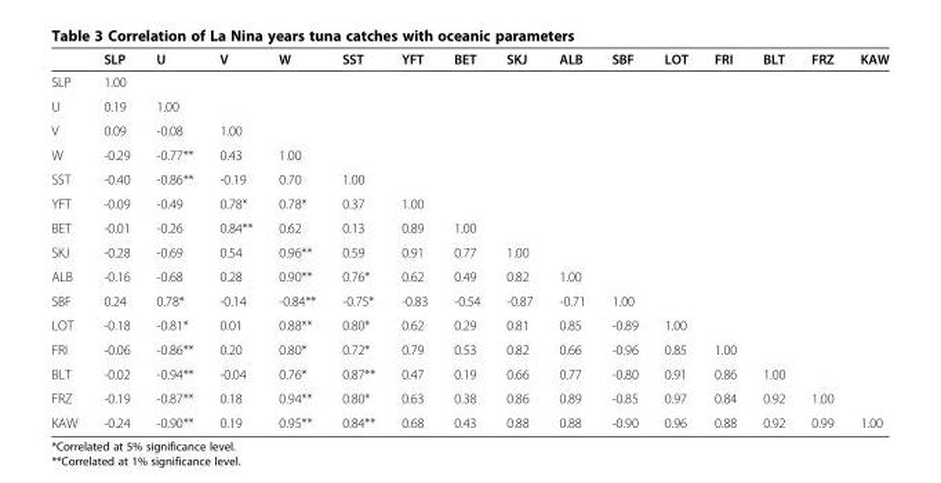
<table><thead><tr><td></td><td>SLP</td><td>U</td><td>V</td><td>W</td><td>SST</td><td>YFT</td><td>BET</td><td>SKJ</td><td>ALB</td><td>SBF</td><td>LOT</td><td>FRI</td><td>BLT</td><td>FRZ</td><td>KAW</td></tr></thead><tbody><tr><td>SLP</td><td>1.00</td><td></td><td></td><td></td><td></td><td></td><td></td><td></td><td></td><td></td><td></td><td></td><td></td><td></td><td></td></tr><tr><td>U</td><td>0.19</td><td>1.00</td><td></td><td></td><td></td><td></td><td></td><td></td><td></td><td></td><td></td><td></td><td></td><td></td><td></td></tr><tr><td>V</td><td>0.09</td><td>-0.08</td><td>1.00</td><td></td><td></td><td></td><td></td><td></td><td></td><td></td><td></td><td></td><td></td><td></td><td></td></tr><tr><td>W</td><td>-0.29</td><td>-0.77**</td><td>0.43</td><td>1.00</td><td></td><td></td><td></td><td></td><td></td><td></td><td></td><td></td><td></td><td></td><td></td></tr><tr><td>SST</td><td>-0.40</td><td>-0.86**</td><td>-0.19</td><td>0.70</td><td>1.00</td><td></td><td></td><td></td><td></td><td></td><td></td><td></td><td></td><td></td><td></td></tr><tr><td>YFT</td><td>-0.09</td><td>-0.49</td><td>0.78*</td><td>0.78*</td><td>0.37</td><td>1.00</td><td></td><td></td><td></td><td></td><td></td><td></td><td></td><td></td><td></td></tr><tr><td>BET</td><td>-0.01</td><td>-0.26</td><td>0.84**</td><td>0.62</td><td>0.13</td><td>0.89</td><td>1.00</td><td></td><td></td><td></td><td></td><td></td><td></td><td></td><td></td></tr><tr><td>SKJ</td><td>-0.28</td><td>-0.69</td><td>0.54</td><td>0.96**</td><td>0.59</td><td>0.91</td><td>0.77</td><td>1.00</td><td></td><td></td><td></td><td></td><td></td><td></td><td></td></tr><tr><td>ALB</td><td>-0.16</td><td>-0.68</td><td>0.28</td><td>0.90**</td><td>0.76*</td><td>0.62</td><td>0.49</td><td>0.82</td><td>1.00</td><td></td><td></td><td></td><td></td><td></td><td></td></tr><tr><td>SBF</td><td>0.24</td><td>0.78*</td><td>-0.14</td><td>-0.84**</td><td>-0.75*</td><td>-0.83</td><td>-0.54</td><td>-0.87</td><td>-0.71</td><td>1.00</td><td></td><td></td><td></td><td></td><td></td></tr><tr><td>LOT</td><td>-0.18</td><td>-0.81*</td><td>0.01</td><td>0.88**</td><td>0.80*</td><td>0.62</td><td>0.29</td><td>0.81</td><td>0.85</td><td>-0.89</td><td>1.00</td><td></td><td></td><td></td><td></td></tr><tr><td>FRI</td><td>-0.06</td><td>-0.86**</td><td>0.20</td><td>0.80*</td><td>0.72*</td><td>0.79</td><td>0.53</td><td>0.82</td><td>0.66</td><td>-0.96</td><td>0.85</td><td>1.00</td><td></td><td></td><td></td></tr><tr><td>BLT</td><td>-0.02</td><td>-0.94**</td><td>-0.04</td><td>0.76*</td><td>0.87**</td><td>0.47</td><td>0.19</td><td>0.66</td><td>0.77</td><td>-0.80</td><td>0.91</td><td>0.86</td><td>1.00</td><td></td><td></td></tr><tr><td>FRZ</td><td>-0.19</td><td>-0.87**</td><td>0.18</td><td>0.94**</td><td>0.80*</td><td>0.63</td><td>0.38</td><td>0.86</td><td>0.89</td><td>-0.85</td><td>0.97</td><td>0.84</td><td>0.92</td><td>1.00</td><td></td></tr><tr><td>KAW</td><td>-0.24</td><td>-0.90**</td><td>0.19</td><td>0.95**</td><td>0.84**</td><td>0.68</td><td>0.43</td><td>0.88</td><td>0.88</td><td>-0.90</td><td>0.96</td><td>0.88</td><td>0.92</td><td>0.99</td><td>1.00</td></tr></tbody></table>